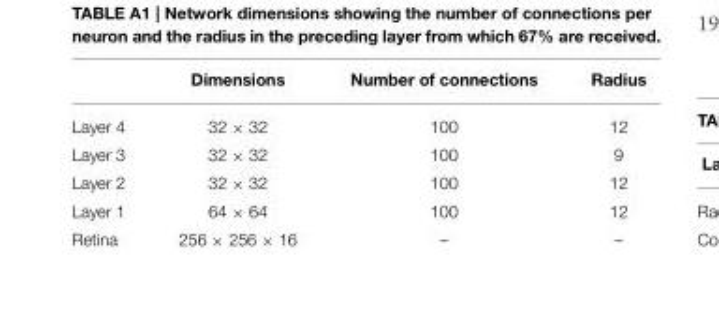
<table><thead><tr><td></td><td>Dimensions</td><td>Number of connections</td><td>Radius</td></tr></thead><tbody><tr><td>Layer 4</td><td>32 × 32</td><td>100</td><td>12</td></tr><tr><td>Layer 3</td><td>32 × 32</td><td>100</td><td>9</td></tr><tr><td>Layer 2</td><td>32 × 32</td><td>100</td><td>12</td></tr><tr><td>Layer 1</td><td>64 × 64</td><td>100</td><td>12</td></tr><tr><td>Retina</td><td>256 × 256 × 16</td><td>–</td><td>–</td></tr></tbody></table>